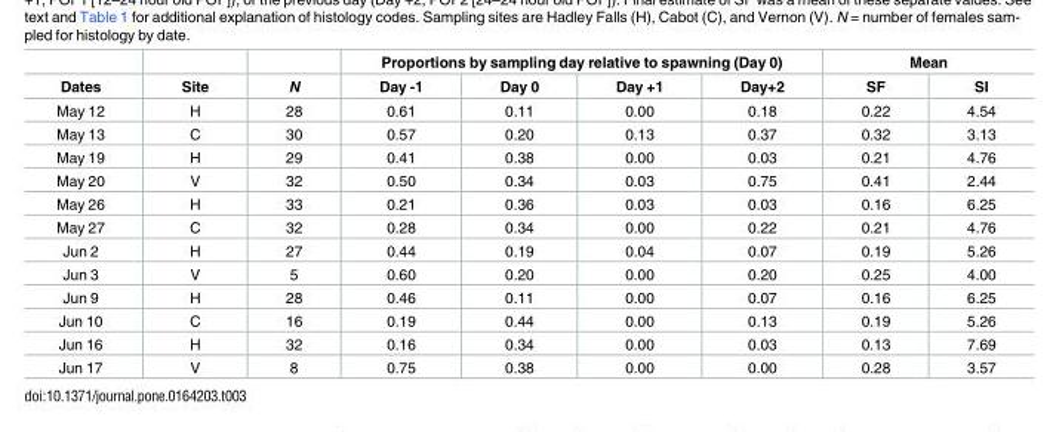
<table><thead><tr><td rowspan="2">Dates</td><td rowspan="2">Site</td><td rowspan="2">N</td><td colspan="4">Proportions by sampling day relative to spawning (Day 0)</td><td colspan="2">Mean</td></tr><tr><td>Day -1</td><td>Day 0</td><td>Day +1</td><td>Day+2</td><td>SF</td><td>SI</td></tr></thead><tbody><tr><td>May 12</td><td>H</td><td>28</td><td>0.61</td><td>0.11</td><td>0.00</td><td>0.18</td><td>0.22</td><td>4.54</td></tr><tr><td>May 13</td><td>C</td><td>30</td><td>0.57</td><td>0.20</td><td>0.13</td><td>0.37</td><td>0.32</td><td>3.13</td></tr><tr><td>May 19</td><td>H</td><td>29</td><td>0.41</td><td>0.38</td><td>0.00</td><td>0.03</td><td>0.21</td><td>4.76</td></tr><tr><td>May 20</td><td>V</td><td>32</td><td>0.50</td><td>0.34</td><td>0.03</td><td>0.75</td><td>0.41</td><td>2.44</td></tr><tr><td>May 26</td><td>H</td><td>33</td><td>0.21</td><td>0.36</td><td>0.03</td><td>0.03</td><td>0.16</td><td>6.25</td></tr><tr><td>May 27</td><td>C</td><td>32</td><td>0.28</td><td>0.34</td><td>0.00</td><td>0.22</td><td>0.21</td><td>4.76</td></tr><tr><td>Jun 2</td><td>H</td><td>27</td><td>0.44</td><td>0.19</td><td>0.04</td><td>0.07</td><td>0.19</td><td>5.26</td></tr><tr><td>Jun 3</td><td>V</td><td>5</td><td>0.60</td><td>0.20</td><td>0.00</td><td>0.20</td><td>0.25</td><td>4.00</td></tr><tr><td>Jun 9</td><td>H</td><td>28</td><td>0.46</td><td>0.11</td><td>0.00</td><td>0.07</td><td>0.16</td><td>6.25</td></tr><tr><td>Jun 10</td><td>C</td><td>16</td><td>0.19</td><td>0.44</td><td>0.00</td><td>0.13</td><td>0.19</td><td>5.26</td></tr><tr><td>Jun 16</td><td>H</td><td>32</td><td>0.16</td><td>0.34</td><td>0.00</td><td>0.03</td><td>0.13</td><td>7.69</td></tr><tr><td>Jun 17</td><td>V</td><td>8</td><td>0.75</td><td>0.38</td><td>0.00</td><td>0.00</td><td>0.28</td><td>3.57</td></tr></tbody></table>